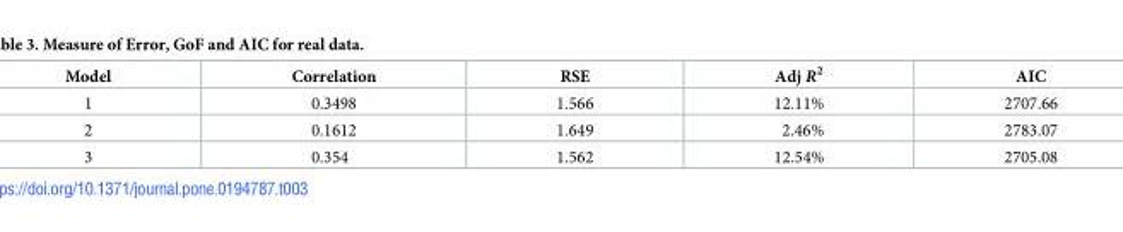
<table><thead><tr><td>Model</td><td>Correlation</td><td>RSE</td><td>Adj R<sup>2</sup></td><td>AIC</td></tr></thead><tbody><tr><td>1</td><td>0.3498</td><td>1.566</td><td>12.11%</td><td>2707.66</td></tr><tr><td>2</td><td>0.1612</td><td>1.649</td><td>2.46%</td><td>2783.07</td></tr><tr><td>3</td><td>0.354</td><td>1.562</td><td>12.54%</td><td>2705.08</td></tr></tbody></table>